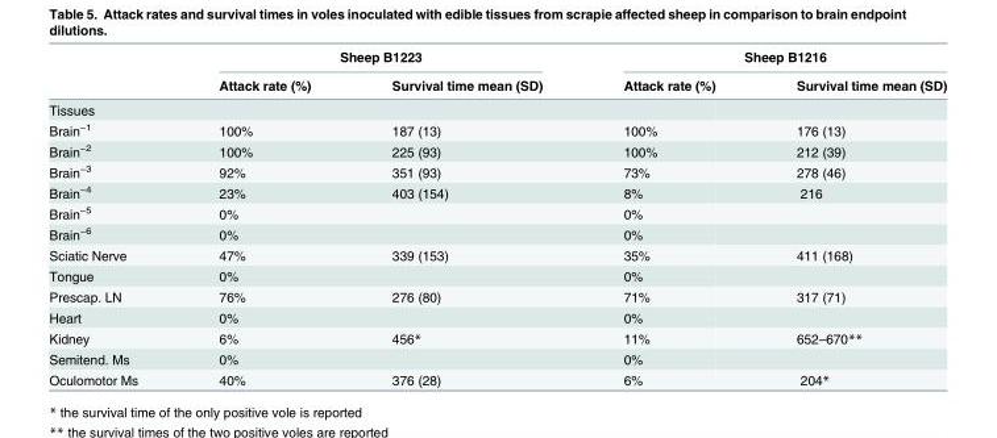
<table><thead><tr><td rowspan="2"></td><td colspan="2">Sheep B1223</td><td colspan="2">Sheep B1216</td></tr><tr><td>Attack rate (%)</td><td>Survival time mean (SD)</td><td>Attack rate (%)</td><td>Survival time mean (SD)</td></tr></thead><tbody><tr><td colspan="5">Tissues</td></tr><tr><td>Brain<sup>−1</sup></td><td>100%</td><td>187 (13)</td><td>100%</td><td>176 (13)</td></tr><tr><td>Brain<sup>−2</sup></td><td>100%</td><td>225 (93)</td><td>100%</td><td>212 (39)</td></tr><tr><td>Brain<sup>−3</sup></td><td>92%</td><td>351 (93)</td><td>73%</td><td>278 (46)</td></tr><tr><td>Brain<sup>−4</sup></td><td>23%</td><td>403 (154)</td><td>8%</td><td>216</td></tr><tr><td>Brain<sup>−5</sup></td><td>0%</td><td></td><td>0%</td><td></td></tr><tr><td>Brain<sup>−6</sup></td><td>0%</td><td></td><td>0%</td><td></td></tr><tr><td>Sciatic Nerve</td><td>47%</td><td>339 (153)</td><td>35%</td><td>411 (168)</td></tr><tr><td>Tongue</td><td>0%</td><td></td><td>0%</td><td></td></tr><tr><td>Prescap. LN</td><td>76%</td><td>276 (80)</td><td>71%</td><td>317 (71)</td></tr><tr><td>Heart</td><td>0%</td><td></td><td>0%</td><td></td></tr><tr><td>Kidney</td><td>6%</td><td>456*</td><td>11%</td><td>652–670**</td></tr><tr><td>Semitend. Ms</td><td>0%</td><td></td><td>0%</td><td></td></tr><tr><td>Oculomotor Ms</td><td>40%</td><td>376 (28)</td><td>6%</td><td>204*</td></tr></tbody></table>